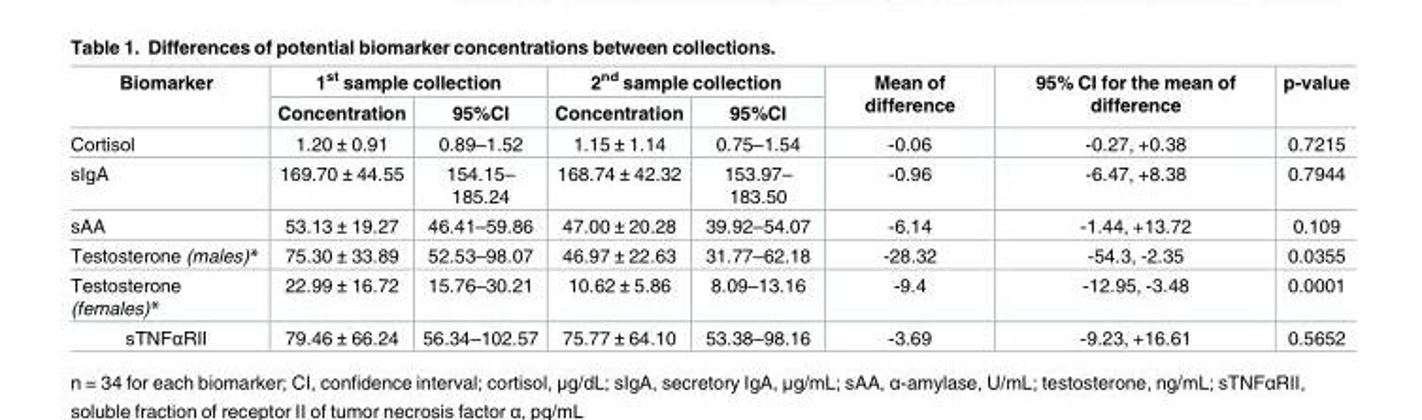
<table><thead><tr><td rowspan="2">Biomarker</td><td colspan="2">1<sup>st</sup> sample collection</td><td colspan="2">2<sup>nd</sup> sample collection</td><td rowspan="2">Mean of difference</td><td rowspan="2">95% CI for the mean of difference</td><td rowspan="2">p-value</td></tr><tr><td>Concentration</td><td>95%CI</td><td>Concentration</td><td>95%CI</td></tr></thead><tbody><tr><td>Cortisol</td><td>1.20 ± 0.91</td><td>0.89–1.52</td><td>1.15 ± 1.14</td><td>0.75–1.54</td><td>-0.06</td><td>-0.27, +0.38</td><td>0.7215</td></tr><tr><td>sIgA</td><td>169.70 ± 44.55</td><td>154.15– 185.24</td><td>168.74 ± 42.32</td><td>153.97– 183.50</td><td>-0.96</td><td>-6.47, +8.38</td><td>0.7944</td></tr><tr><td>sAA</td><td>53.13 ± 19.27</td><td>46.41–59.86</td><td>47.00 ± 20.28</td><td>39.92–54.07</td><td>-6.14</td><td>-1.44, +13.72</td><td>0.109</td></tr><tr><td>Testosterone (males)*</td><td>75.30 ± 33.89</td><td>52.53–98.07</td><td>46.97 ± 22.63</td><td>31.77–62.18</td><td>-28.32</td><td>-54.3, -2.35</td><td>0.0355</td></tr><tr><td>Testosterone (females)*</td><td>22.99 ± 16.72</td><td>15.76–30.21</td><td>10.62 ± 5.86</td><td>8.09–13.16</td><td>-9.4</td><td>-12.95, -3.48</td><td>0.0001</td></tr><tr><td>sTNFαRII</td><td>79.46 ± 66.24</td><td>56.34–102.57</td><td>75.77 ± 64.10</td><td>53.38–98.16</td><td>-3.69</td><td>-9.23, +16.61</td><td>0.5652</td></tr></tbody></table>